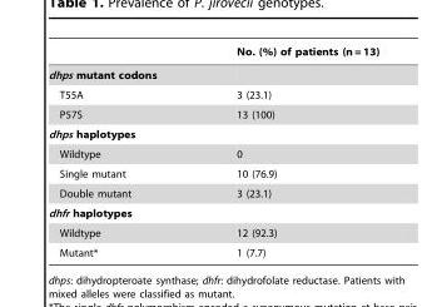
<table><thead><tr><td></td><td>No. (%) of patients (n = 13)</td></tr></thead><tbody><tr><td colspan="2">dhps mutant codons</td></tr><tr><td>T55A</td><td>3 (23.1)</td></tr><tr><td>P57S</td><td>13 (100)</td></tr><tr><td colspan="2">dhps haplotypes</td></tr><tr><td>Wildtype</td><td>0</td></tr><tr><td>Single mutant</td><td>10 (76.9)</td></tr><tr><td>Double mutant</td><td>3 (23.1)</td></tr><tr><td colspan="2">dhfr haplotypes</td></tr><tr><td>Wildtype</td><td>12 (92.3)</td></tr><tr><td>Mutant*</td><td>1 (7.7)</td></tr></tbody></table>